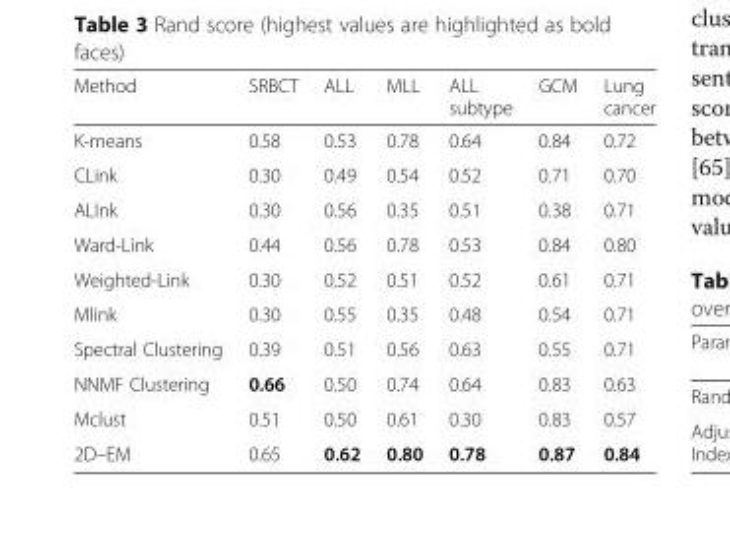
<table><thead><tr><td>Method</td><td>SRBCT</td><td>ALL</td><td>MLL</td><td>ALL subtype</td><td>GCM</td><td>Lung cancer</td></tr></thead><tbody><tr><td>K-means</td><td>0.58</td><td>0.53</td><td>0.78</td><td>0.64</td><td>0.84</td><td>0.72</td></tr><tr><td>CLink</td><td>0.30</td><td>0.49</td><td>0.54</td><td>0.52</td><td>0.71</td><td>0.70</td></tr><tr><td>ALInk</td><td>0.30</td><td>0.56</td><td>0.35</td><td>0.51</td><td>0.38</td><td>0.71</td></tr><tr><td>Ward-Link</td><td>0.44</td><td>0.56</td><td>0.78</td><td>0.53</td><td>0.84</td><td>0.80</td></tr><tr><td>Weighted-Link</td><td>0.30</td><td>0.52</td><td>0.51</td><td>0.52</td><td>0.61</td><td>0.71</td></tr><tr><td>Mlink</td><td>0.30</td><td>0.55</td><td>0.35</td><td>0.48</td><td>0.54</td><td>0.71</td></tr><tr><td>Spectral Clustering</td><td>0.39</td><td>0.51</td><td>0.56</td><td>0.63</td><td>0.55</td><td>0.71</td></tr><tr><td>NNMF Clustering</td><td>0.66</td><td>0.50</td><td>0.74</td><td>0.64</td><td>0.83</td><td>0.63</td></tr><tr><td>Mclust</td><td>0.51</td><td>0.50</td><td>0.61</td><td>0.30</td><td>0.83</td><td>0.57</td></tr><tr><td>2D–EM</td><td>0.65</td><td>0.62</td><td>0.80</td><td>0.78</td><td>0.87</td><td>0.84</td></tr></tbody></table>